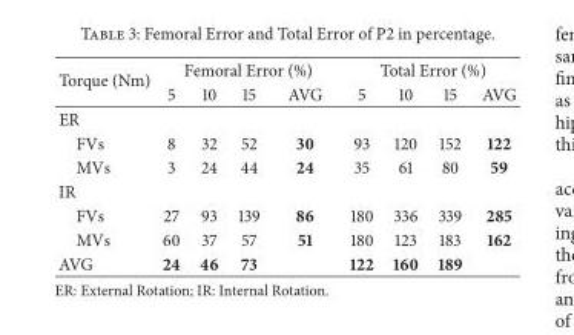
<table><thead><tr><td rowspan="2">Torque (Nm)</td><td colspan="4">Femoral Error (%)</td><td colspan="4">Total Error (%)</td></tr><tr><td>5</td><td>10</td><td>15</td><td>AVG</td><td>5</td><td>10</td><td>15</td><td>AVG</td></tr></thead><tbody><tr><td colspan="9">ER</td></tr><tr><td>FVs</td><td>8</td><td>32</td><td>52</td><td>30</td><td>93</td><td>120</td><td>152</td><td>122</td></tr><tr><td>MVs</td><td>3</td><td>24</td><td>44</td><td>24</td><td>35</td><td>61</td><td>80</td><td>59</td></tr><tr><td colspan="9">IR</td></tr><tr><td>FVs</td><td>27</td><td>93</td><td>139</td><td>86</td><td>180</td><td>336</td><td>339</td><td>285</td></tr><tr><td>MVs</td><td>60</td><td>37</td><td>57</td><td>51</td><td>180</td><td>123</td><td>183</td><td>162</td></tr><tr><td>AVG</td><td>24</td><td>46</td><td>73</td><td></td><td>122</td><td>160</td><td>189</td><td></td></tr></tbody></table>